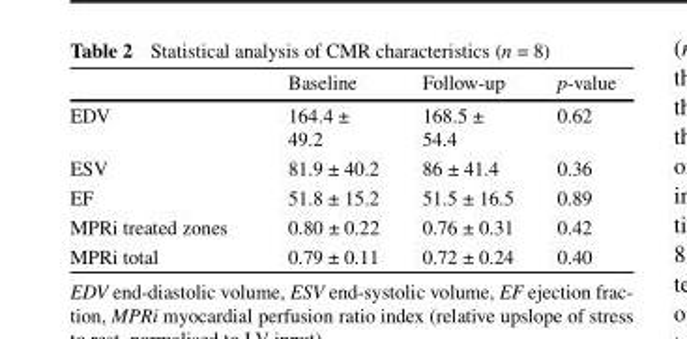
<table><thead><tr><td></td><td>Baseline</td><td>Follow-up</td><td>p-value</td></tr></thead><tbody><tr><td>EDV</td><td>164.4 ± 49.2</td><td>168.5 ± 54.4</td><td>0.62</td></tr><tr><td>ESV</td><td>81.9 ± 40.2</td><td>86 ± 41.4</td><td>0.36</td></tr><tr><td>EF</td><td>51.8 ± 15.2</td><td>51.5 ± 16.5</td><td>0.89</td></tr><tr><td>MPRi treated zones</td><td>0.80 ± 0.22</td><td>0.76 ± 0.31</td><td>0.42</td></tr><tr><td>MPRi total</td><td>0.79 ± 0.11</td><td>0.72 ± 0.24</td><td>0.40</td></tr></tbody></table>